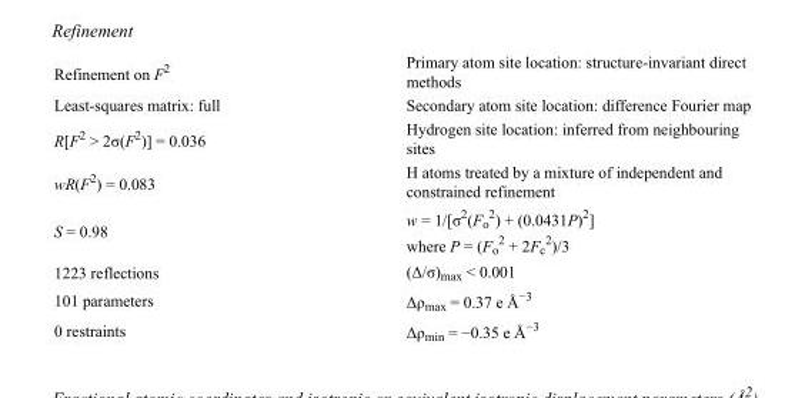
<table><tbody><tr><td>Refinement on F<sup>2</sup></td><td>Primary atom site location: structure-invariant direct methods</td></tr><tr><td>Least-squares matrix: full</td><td>Secondary atom site location: difference Fourier map</td></tr><tr><td>R[F<sup>2</sup> &gt; 2σ(F<sup>2</sup>)] = 0.036</td><td>Hydrogen site location: inferred from neighbouring sites</td></tr><tr><td>wR(F<sup>2</sup>) = 0.083</td><td>H atoms treated by a mixture of independent and constrained refinement</td></tr><tr><td>S = 0.98</td><td>w = 1/[σ<sup>2</sup>(F<sub>o</sub> <sup>2</sup>) + (0.0431P)<sup>2</sup>] where P = (F<sub>o</sub> <sup>2</sup> + 2F<sub>c</sub> <sup>2</sup>)/3</td></tr><tr><td>1223 reflections</td><td>(Δ/σ)<sub>max</sub> &lt; 0.001</td></tr><tr><td>101 parameters</td><td>Δρ<sub>max</sub> = 0.37 e Å<sup>−3</sup></td></tr><tr><td>0 restraints</td><td>Δρ<sub>min</sub> = −0.35 e Å<sup>−3</sup></td></tr></tbody></table>